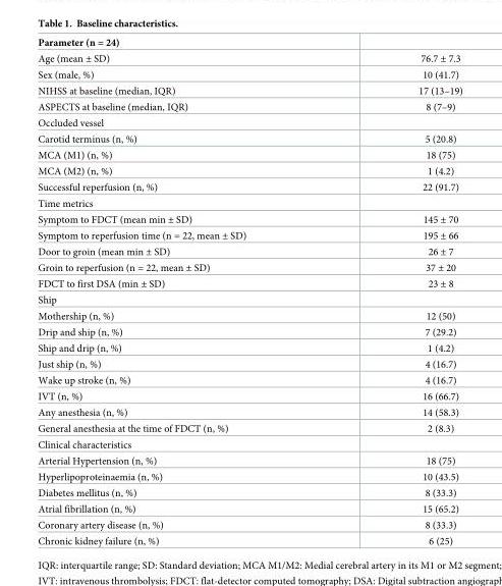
<table><thead><tr><td>Parameter (n = 24)</td><td></td></tr></thead><tbody><tr><td>Age (mean ± SD)</td><td>76.7 ± 7.3</td></tr><tr><td>Sex (male, %)</td><td>10 (41.7)</td></tr><tr><td>NIHSS at baseline (median, IQR)</td><td>17 (13–19)</td></tr><tr><td>ASPECTS at baseline (median, IQR)</td><td>8 (7–9)</td></tr><tr><td colspan="2">Occluded vessel</td></tr><tr><td>Carotid terminus (n, %)</td><td>5 (20.8)</td></tr><tr><td>MCA (M1) (n, %)</td><td>18 (75)</td></tr><tr><td>MCA (M2) (n, %)</td><td>1 (4.2)</td></tr><tr><td>Successful reperfusion (n, %)</td><td>22 (91.7)</td></tr><tr><td colspan="2">Time metrics</td></tr><tr><td>Symptom to FDCT (mean min ± SD)</td><td>145 ± 70</td></tr><tr><td>Symptom to reperfusion time (n = 22, mean ± SD)</td><td>195 ± 66</td></tr><tr><td>Door to groin (mean min ± SD)</td><td>26 ± 7</td></tr><tr><td>Groin to reperfusion (n = 22, mean ± SD)</td><td>37 ± 20</td></tr><tr><td>FDCT to first DSA (min ± SD)</td><td>23 ± 8</td></tr><tr><td colspan="2">Ship</td></tr><tr><td>Mothership (n, %)</td><td>12 (50)</td></tr><tr><td>Drip and ship (n, %)</td><td>7 (29.2)</td></tr><tr><td>Ship and drip (n, %)</td><td>1 (4.2)</td></tr><tr><td>Just ship (n, %)</td><td>4 (16.7)</td></tr><tr><td>Wake up stroke (n, %)</td><td>4 (16.7)</td></tr><tr><td>IVT (n, %)</td><td>16 (66.7)</td></tr><tr><td>Any anesthesia (n, %)</td><td>14 (58.3)</td></tr><tr><td>General anesthesia at the time of FDCT (n, %)</td><td>2 (8.3)</td></tr><tr><td colspan="2">Clinical characteristics</td></tr><tr><td>Arterial Hypertension (n, %)</td><td>18 (75)</td></tr><tr><td>Hyperlipoproteinaemia (n, %)</td><td>10 (43.5)</td></tr><tr><td>Diabetes mellitus (n, %)</td><td>8 (33.3)</td></tr><tr><td>Atrial fibrillation (n, %)</td><td>15 (65.2)</td></tr><tr><td>Coronary artery disease (n, %)</td><td>8 (33.3)</td></tr><tr><td>Chronic kidney failure (n, %)</td><td>6 (25)</td></tr></tbody></table>